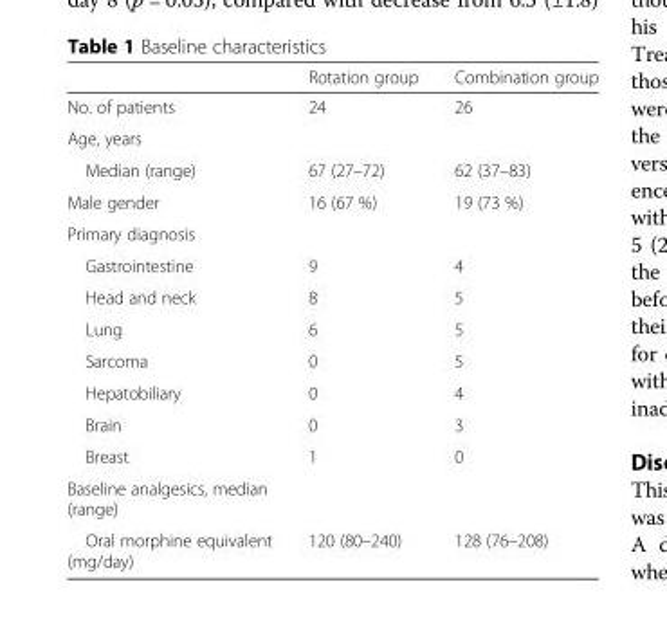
<table><thead><tr><td></td><td>Rotation group</td><td>Combination group</td></tr></thead><tbody><tr><td>No. of patients</td><td>24</td><td>26</td></tr><tr><td colspan="3">Age, years</td></tr><tr><td>Median (range)</td><td>67 (27–72)</td><td>62 (37–83)</td></tr><tr><td>Male gender</td><td>16 (67 %)</td><td>19 (73 %)</td></tr><tr><td colspan="3">Primary diagnosis</td></tr><tr><td>Gastrointestine</td><td>9</td><td>4</td></tr><tr><td>Head and neck</td><td>8</td><td>5</td></tr><tr><td>Lung</td><td>6</td><td>5</td></tr><tr><td>Sarcoma</td><td>0</td><td>5</td></tr><tr><td>Hepatobiliary</td><td>0</td><td>4</td></tr><tr><td>Brain</td><td>0</td><td>3</td></tr><tr><td>Breast</td><td>1</td><td>0</td></tr><tr><td colspan="3">Baseline analgesics, median (range)</td></tr><tr><td>Oral morphine equivalent (mg/day)</td><td>120 (80–240)</td><td>128 (76–208)</td></tr></tbody></table>